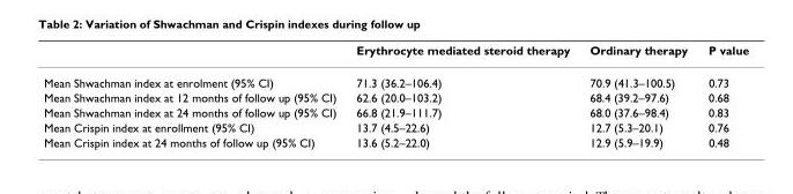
<table><thead><tr><td></td><td>Erythrocyte mediated steroid therapy</td><td>Ordinary therapy</td><td>P value</td></tr></thead><tbody><tr><td>Mean Shwachman index at enrolment (95% CI)</td><td>71.3 (36.2–106.4)</td><td>70.9 (41.3–100.5)</td><td>0.73</td></tr><tr><td>Mean Shwachman index at 12 months of follow up (95% CI)</td><td>62.6 (20.0–103.2)</td><td>68.4 (39.2–97.6)</td><td>0.68</td></tr><tr><td>Mean Shwachman index at 24 months of follow up (95% CI)</td><td>66.8 (21.9–111.7)</td><td>68.0 (37.6–98.4)</td><td>0.83</td></tr><tr><td>Mean Crispin index at enrollment (95% CI)</td><td>13.7 (4.5–22.6)</td><td>12.7 (5.3–20.1)</td><td>0.76</td></tr><tr><td>Mean Crispin index at 24 months of follow up (95% CI)</td><td>13.6 (5.2–22.0)</td><td>12.9 (5.9–19.9)</td><td>0.48</td></tr></tbody></table>